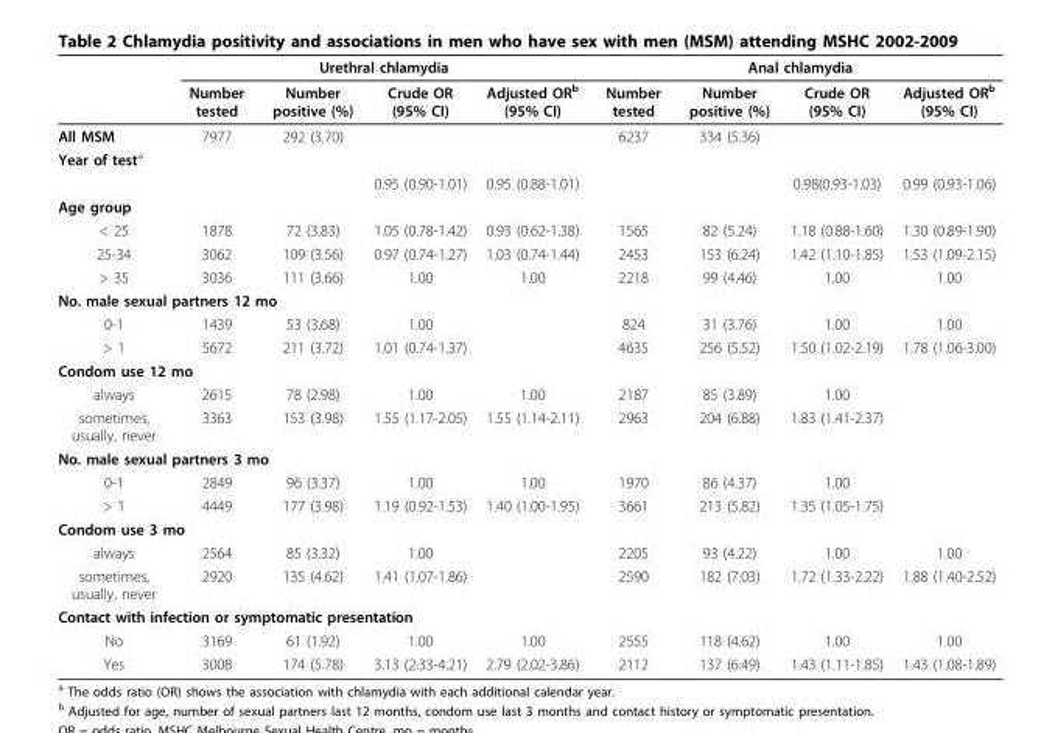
<table><thead><tr><td rowspan="2"></td><td colspan="4">Urethral chlamydia</td><td colspan="4">Anal chlamydia</td></tr><tr><td>Number tested</td><td>Number positive (%)</td><td>Crude OR (95% CI)</td><td>Adjusted OR<sup>b</sup> (95% CI)</td><td>Number tested</td><td>Number positive (%)</td><td>Crude OR (95% CI)</td><td>Adjusted OR<sup>b</sup> (95% CI)</td></tr></thead><tbody><tr><td>All MSM</td><td>7977</td><td>292 (3.70)</td><td></td><td></td><td>6237</td><td>334 (5.36)</td><td></td><td></td></tr><tr><td colspan="9">Year of test<sup>a</sup></td></tr><tr><td></td><td></td><td></td><td>0.95 (0.90-1.01)</td><td>0.95 (0.88-1.01)</td><td></td><td></td><td>0.98(0.93-1.03)</td><td>0.99 (0.93-1.06)</td></tr><tr><td colspan="9">Age group</td></tr><tr><td>&lt; 25</td><td>1878</td><td>72 (3.83)</td><td>1.05 (0.78-1.42)</td><td>0.93 (0.62-1.38)</td><td>1565</td><td>82 (5.24)</td><td>1.18 (0.88-1.60)</td><td>1.30 (0.89-1.90)</td></tr><tr><td>25-34</td><td>3062</td><td>109 (3.56)</td><td>0.97 (0.74-1.27)</td><td>1.03 (0.74-1.44)</td><td>2453</td><td>153 (6.24)</td><td>1.42 (1.10-1.85)</td><td>1.53 (1.09-2.15)</td></tr><tr><td>&gt; 35</td><td>3036</td><td>111 (3.66)</td><td>1.00</td><td>1.00</td><td>2218</td><td>99 (4.46)</td><td>1.00</td><td>1.00</td></tr><tr><td colspan="9">No. male sexual partners 12 mo</td></tr><tr><td>0-1</td><td>1439</td><td>53 (3.68)</td><td>1.00</td><td></td><td>824</td><td>31 (3.76)</td><td>1.00</td><td>1.00</td></tr><tr><td>&gt; 1</td><td>5672</td><td>211 (3.72)</td><td>1.01 (0.74-1.37)</td><td></td><td>4635</td><td>256 (5.52)</td><td>1.50 (1.02-2.19)</td><td>1.78 (1.06-3.00)</td></tr><tr><td colspan="9">Condom use 12 mo</td></tr><tr><td>always</td><td>2615</td><td>78 (2.98)</td><td>1.00</td><td>1.00</td><td>2187</td><td>85 (3.89)</td><td>1.00</td><td></td></tr><tr><td>sometimes, usually, never</td><td>3363</td><td>153 (3.98)</td><td>1.55 (1.17-2.05)</td><td>1.55 (1.14-2.11)</td><td>2963</td><td>204 (6.88)</td><td>1.83 (1.41-2.37)</td><td></td></tr><tr><td colspan="9">No. male sexual partners 3 mo</td></tr><tr><td>0-1</td><td>2849</td><td>96 (3.37)</td><td>1.00</td><td>1.00</td><td>1970</td><td>86 (4.37)</td><td>1.00</td><td></td></tr><tr><td>&gt; 1</td><td>4449</td><td>177 (3.98)</td><td>1.19 (0.92-1.53)</td><td>1.40 (1.00-1.95)</td><td>3661</td><td>213 (5.82)</td><td>1.35 (1.05-1.75)</td><td></td></tr><tr><td colspan="9">Condom use 3 mo</td></tr><tr><td>always</td><td>2564</td><td>85 (3.32)</td><td>1.00</td><td></td><td>2205</td><td>93 (4.22)</td><td>1.00</td><td>1.00</td></tr><tr><td>sometimes, usually, never</td><td>2920</td><td>135 (4.62)</td><td>1.41 (1.07-1.86)</td><td></td><td>2590</td><td>182 (7.03)</td><td>1.72 (1.33-2.22)</td><td>1.88 (1.40-2.52)</td></tr><tr><td colspan="9">Contact with infection or symptomatic presentation</td></tr><tr><td>No</td><td>3169</td><td>61 (1.92)</td><td>1.00</td><td>1.00</td><td>2555</td><td>118 (4.62)</td><td>1.00</td><td>1.00</td></tr><tr><td>Yes</td><td>3008</td><td>174 (5.78)</td><td>3.13 (2.33-4.21)</td><td>2.79 (2.02-3.86)</td><td>2112</td><td>137 (6.49)</td><td>1.43 (1.11-1.85)</td><td>1.43 (1.08-1.89)</td></tr></tbody></table>